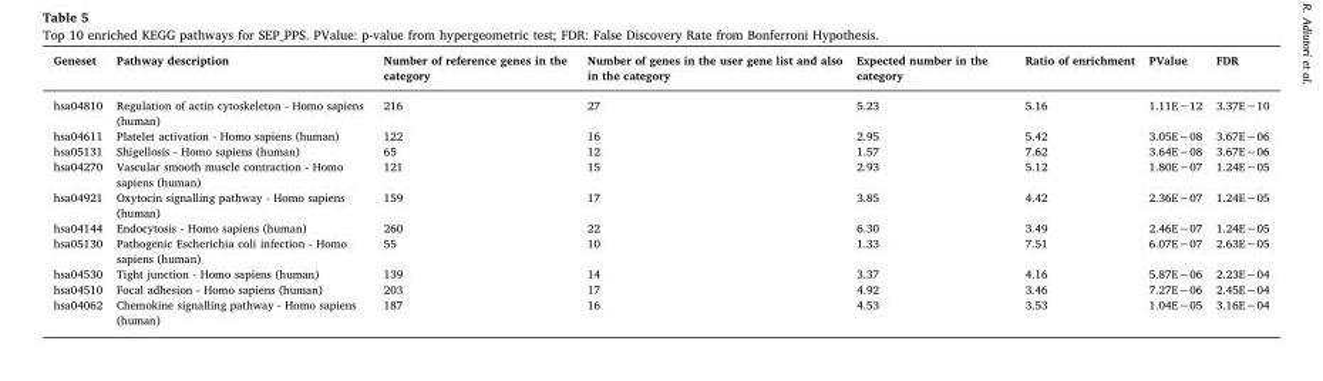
<table><thead><tr><td>Geneset</td><td>Pathway description</td><td>Number of reference genes in the category</td><td>Number of genes in the user gene list and also in the category</td><td>Expected number in the category</td><td>Ratio of enrichment</td><td>PValue</td><td>FDR</td></tr></thead><tbody><tr><td>hsa04810</td><td>Regulation of actin cytoskeleton - Homo sapiens (human)</td><td>216</td><td>27</td><td>5.23</td><td>5.16</td><td>1.11E−12</td><td>3.37E−10</td></tr><tr><td>hsa04611</td><td>Platelet activation - Homo sapiens (human)</td><td>122</td><td>16</td><td>2.95</td><td>5.42</td><td>3.05E−08</td><td>3.67E−06</td></tr><tr><td>hsa05131</td><td>Shigellosis - Homo sapiens (human)</td><td>65</td><td>12</td><td>1.57</td><td>7.62</td><td>3.64E−08</td><td>3.67E−06</td></tr><tr><td>hsa04270</td><td>Vascular smooth muscle contraction - Homo sapiens (human)</td><td>121</td><td>15</td><td>2.93</td><td>5.12</td><td>1.80E−07</td><td>1.24E−05</td></tr><tr><td>hsa04921</td><td>Oxytocin signalling pathway - Homo sapiens (human)</td><td>159</td><td>17</td><td>3.85</td><td>4.42</td><td>2.36E−07</td><td>1.24E−05</td></tr><tr><td>hsa04144</td><td>Endocytosis - Homo sapiens (human)</td><td>260</td><td>22</td><td>6.30</td><td>3.49</td><td>2.46E−07</td><td>1.24E−05</td></tr><tr><td>hsa05130</td><td>Pathogenic Escherichia coli infection - Homo sapiens (human)</td><td>55</td><td>10</td><td>1.33</td><td>7.51</td><td>6.07E−07</td><td>2.63E−05</td></tr><tr><td>hsa04530</td><td>Tight junction - Homo sapiens (human)</td><td>139</td><td>14</td><td>3.37</td><td>4.16</td><td>5.87E−06</td><td>2.23E−04</td></tr><tr><td>hsa04510</td><td>Focal adhesion - Homo sapiens (human)</td><td>203</td><td>17</td><td>4.92</td><td>3.46</td><td>7.27E−06</td><td>2.45E−04</td></tr><tr><td>hsa04062</td><td>Chemokine signalling pathway - Homo sapiens (human)</td><td>187</td><td>16</td><td>4.53</td><td>3.53</td><td>1.04E−05</td><td>3.16E−04</td></tr></tbody></table>